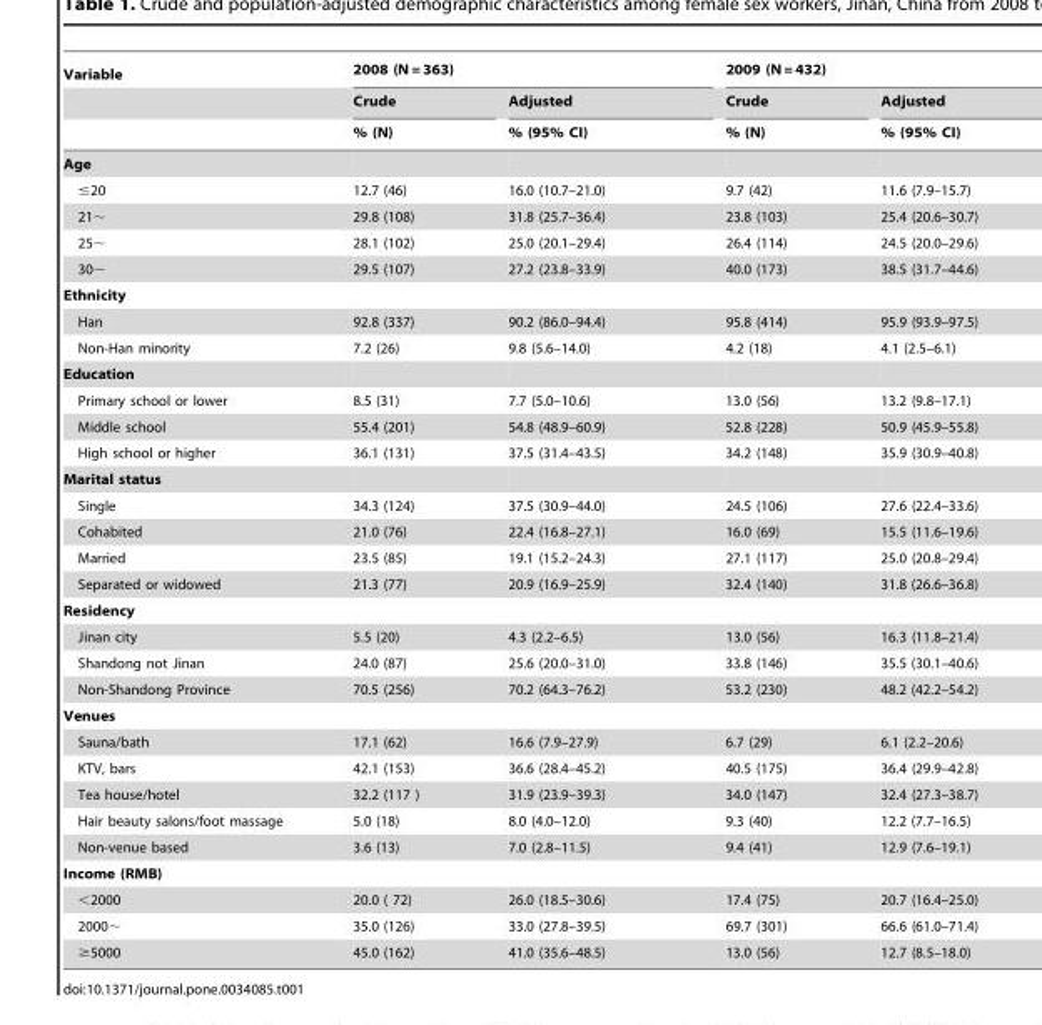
<table><thead><tr><td rowspan="3">Variable</td><td colspan="2">2008 (N = 363)</td><td colspan="2">2009 (N = 432)</td></tr><tr><td rowspan="2">Crude % (N)</td><td rowspan="2">Adjusted % (95% CI)</td><td rowspan="2">Crude % (N)</td><td rowspan="2">Adjusted % (95% CI)</td></tr><tr></tr></thead><tbody><tr><td colspan="5">Age</td></tr><tr><td>≤20</td><td>12.7 (46)</td><td>16.0 (10.7–21.0)</td><td>9.7 (42)</td><td>11.6 (7.9–15.7)</td></tr><tr><td>21∼</td><td>29.8 (108)</td><td>31.8 (25.7–36.4)</td><td>23.8 (103)</td><td>25.4 (20.6–30.7)</td></tr><tr><td>25∼</td><td>28.1 (102)</td><td>25.0 (20.1–29.4)</td><td>26.4 (114)</td><td>24.5 (20.0–29.6)</td></tr><tr><td>30∼</td><td>29.5 (107)</td><td>27.2 (23.8–33.9)</td><td>40.0 (173)</td><td>38.5 (31.7–44.6)</td></tr><tr><td colspan="5">Ethnicity</td></tr><tr><td>Han</td><td>92.8 (337)</td><td>90.2 (86.0–94.4)</td><td>95.8 (414)</td><td>95.9 (93.9–97.5)</td></tr><tr><td>Non-Han minority</td><td>7.2 (26)</td><td>9.8 (5.6–14.0)</td><td>4.2 (18)</td><td>4.1 (2.5–6.1)</td></tr><tr><td colspan="5">Education</td></tr><tr><td>Primary school or lower</td><td>8.5 (31)</td><td>7.7 (5.0–10.6)</td><td>13.0 (56)</td><td>13.2 (9.8–17.1)</td></tr><tr><td>Middle school</td><td>55.4 (201)</td><td>54.8 (48.9–60.9)</td><td>52.8 (228)</td><td>50.9 (45.9–55.8)</td></tr><tr><td>High school or higher</td><td>36.1 (131)</td><td>37.5 (31.4–43.5)</td><td>34.2 (148)</td><td>35.9 (30.9–40.8)</td></tr><tr><td colspan="5">Marital status</td></tr><tr><td>Single</td><td>34.3 (124)</td><td>37.5 (30.9–44.0)</td><td>24.5 (106)</td><td>27.6 (22.4–33.6)</td></tr><tr><td>Cohabited</td><td>21.0 (76)</td><td>22.4 (16.8–27.1)</td><td>16.0 (69)</td><td>15.5 (11.6–19.6)</td></tr><tr><td>Married</td><td>23.5 (85)</td><td>19.1 (15.2–24.3)</td><td>27.1 (117)</td><td>25.0 (20.8–29.4)</td></tr><tr><td>Separated or widowed</td><td>21.3 (77)</td><td>20.9 (16.9–25.9)</td><td>32.4 (140)</td><td>31.8 (26.6–36.8)</td></tr><tr><td colspan="5">Residency</td></tr><tr><td>Jinan city</td><td>5.5 (20)</td><td>4.3 (2.2–6.5)</td><td>13.0 (56)</td><td>16.3 (11.8–21.4)</td></tr><tr><td>Shandong not Jinan</td><td>24.0 (87)</td><td>25.6 (20.0–31.0)</td><td>33.8 (146)</td><td>35.5 (30.1–40.6)</td></tr><tr><td>Non-Shandong Province</td><td>70.5 (256)</td><td>70.2 (64.3–76.2)</td><td>53.2 (230)</td><td>48.2 (42.2–54.2)</td></tr><tr><td colspan="5">Venues</td></tr><tr><td>Sauna/bath</td><td>17.1 (62)</td><td>16.6 (7.9–27.9)</td><td>6.7 (29)</td><td>6.1 (2.2–20.6)</td></tr><tr><td>KTV, bars</td><td>42.1 (153)</td><td>36.6 (28.4–45.2)</td><td>40.5 (175)</td><td>36.4 (29.9–42.8)</td></tr><tr><td>Tea house/hotel</td><td>32.2 (117 )</td><td>31.9 (23.9–39.3)</td><td>34.0 (147)</td><td>32.4 (27.3–38.7)</td></tr><tr><td>Hair beauty salons/foot massage</td><td>5.0 (18)</td><td>8.0 (4.0–12.0)</td><td>9.3 (40)</td><td>12.2 (7.7–16.5)</td></tr><tr><td>Non-venue based</td><td>3.6 (13)</td><td>7.0 (2.8–11.5)</td><td>9.4 (41)</td><td>12.9 (7.6–19.1)</td></tr><tr><td colspan="5">Income (RMB)</td></tr><tr><td>&lt;2000</td><td>20.0 ( 72)</td><td>26.0 (18.5–30.6)</td><td>17.4 (75)</td><td>20.7 (16.4–25.0)</td></tr><tr><td>2000∼</td><td>35.0 (126)</td><td>33.0 (27.8–39.5)</td><td>69.7 (301)</td><td>66.6 (61.0–71.4)</td></tr><tr><td>≥5000</td><td>45.0 (162)</td><td>41.0 (35.6–48.5)</td><td>13.0 (56)</td><td>12.7 (8.5–18.0)</td></tr></tbody></table>